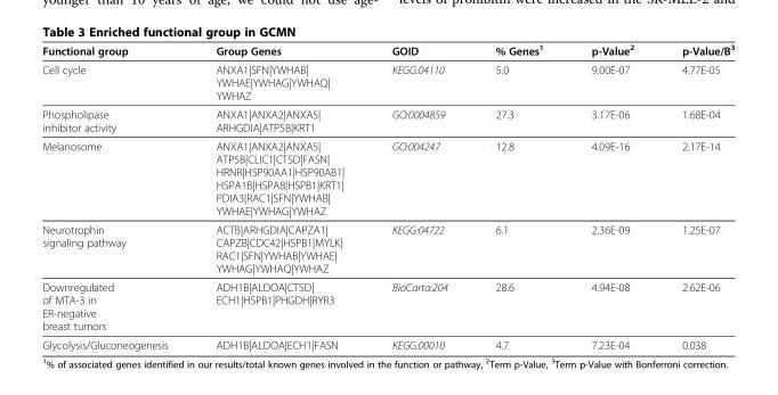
<table><thead><tr><td>Functional group</td><td>Group Genes</td><td>GOID</td><td>% Genes<sup>1</sup></td><td>p-Value<sup>2</sup></td><td>p-Value/B<sup>3</sup></td></tr></thead><tbody><tr><td>Cell cycle</td><td>ANXA1|SFN|YWHAB| YWHAE|YWHAG|YWHAQ| YWHAZ</td><td>KEGG:04110</td><td>5.0</td><td>9.00E-07</td><td>4.77E-05</td></tr><tr><td>Phospholipase inhibitor activity</td><td>ANXA1|ANXA2|ANXA5| ARHGDIA|ATP5B|KRT1</td><td>GO:0004859</td><td>27.3</td><td>3.17E-06</td><td>1.68E-04</td></tr><tr><td>Melanosome</td><td>ANXA1|ANXA2|ANXA5| ATP5B|CLIC1|CTSD|FASN| HRNR|HSP90AA1|HSP90AB1| HSPA1B|HSPA8|HSPB1|KRT1| PDIA3|RAC1|SFN|YWHAB| YWHAE|YWHAG|YWHAZ</td><td>GO:004247</td><td>12.8</td><td>4.09E-16</td><td>2.17E-14</td></tr><tr><td>Neurotrophin signaling pathway</td><td>ACTB|ARHGDIA|CAPZA1| CAPZB|CDC42|HSPB1|MYLK| RAC1|SFN|YWHAB|YWHAE| YWHAG|YWHAQ|YWHAZ</td><td>KEGG:04722</td><td>6.1</td><td>2.36E-09</td><td>1.25E-07</td></tr><tr><td>Downregulated of MTA-3 in ER-negative breast tumors</td><td>ADH1B|ALDOA|CTSD| ECH1|HSPB1|PHGDH|RYR3</td><td>BioCarta:204</td><td>28.6</td><td>4.94E-08</td><td>2.62E-06</td></tr><tr><td>Glycolysis/Gluconeogenesis</td><td>ADH1B|ALDOA|ECH1|FASN</td><td>KEGG:00010</td><td>4.7</td><td>7.23E-04</td><td>0.038</td></tr></tbody></table>